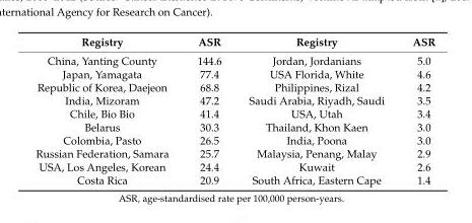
<table><thead><tr><td>Registry</td><td>ASR</td><td>Registry</td><td>ASR</td></tr></thead><tbody><tr><td>China, Yanting County</td><td>144.6</td><td>Jordan, Jordanians</td><td>5.0</td></tr><tr><td>Japan, Yamagata</td><td>77.4</td><td>USA Florida, White</td><td>4.6</td></tr><tr><td>Republic of Korea, Daejeon</td><td>68.8</td><td>Philippines, Rizal</td><td>4.2</td></tr><tr><td>India, Mizoram</td><td>47.2</td><td>Saudi Arabia, Riyadh, Saudi</td><td>3.5</td></tr><tr><td>Chile, Bio Bio</td><td>41.4</td><td>USA, Utah</td><td>3.4</td></tr><tr><td>Belarus</td><td>30.3</td><td>Thailand, Khon Kaen</td><td>3.0</td></tr><tr><td>Colombia, Pasto</td><td>26.5</td><td>India, Poona</td><td>3.0</td></tr><tr><td>Russian Federation, Samara</td><td>25.7</td><td>Malaysia, Penang, Malay</td><td>2.9</td></tr><tr><td>USA, Los Angeles, Korean</td><td>24.4</td><td>Kuwait</td><td>2.6</td></tr><tr><td>Costa Rica</td><td>20.9</td><td>South Africa, Eastern Cape</td><td>1.4</td></tr></tbody></table>